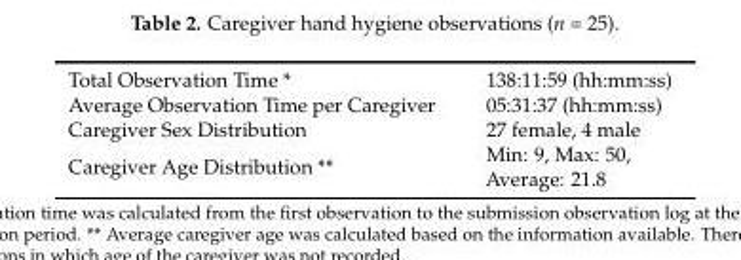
<table><tbody><tr><td>Total Observation Time *</td><td>138:11:59 (hh:mm:ss)</td></tr><tr><td>Average Observation Time per Caregiver</td><td>05:31:37 (hh:mm:ss)</td></tr><tr><td>Caregiver Sex Distribution</td><td>27 female, 4 male</td></tr><tr><td>Caregiver Age Distribution **</td><td>Min: 9, Max: 50, Average: 21.8</td></tr></tbody></table>